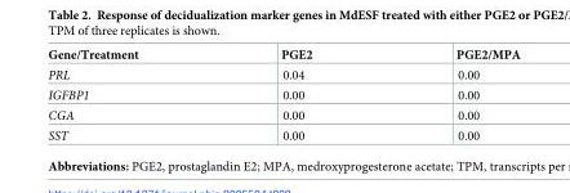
<table><thead><tr><td>Gene/Treatment</td><td>PGE2</td><td>PGE2/MPA</td></tr></thead><tbody><tr><td>PRL</td><td>0.04</td><td>0.00</td></tr><tr><td>IGFBP1</td><td>0.00</td><td>0.00</td></tr><tr><td>CGA</td><td>0.00</td><td>0.00</td></tr><tr><td>SST</td><td>0.00</td><td>0.00</td></tr></tbody></table>